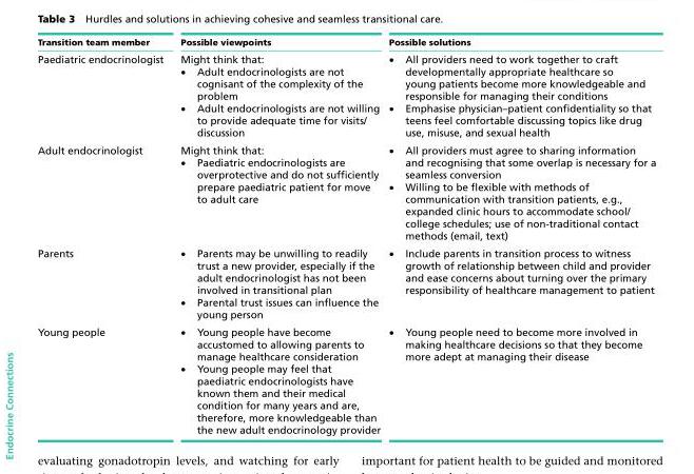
<table><thead><tr><td>Transition team member</td><td>Possible viewpoints</td><td>Possible solutions</td></tr></thead><tbody><tr><td>Paediatric endocrinologist</td><td>Might think that: • Adult endocrinologists are not cognisant of the complexity of the problem • Adult endocrinologists are not willing to provide adequate time for visits/ discussion</td><td>• All providers need to work together to craft developmentally appropriate healthcare so young patients become more knowledgeable and responsible for managing their conditions • Emphasise physician–patient confidentiality so that teens feel comfortable discussing topics like drug use, misuse, and sexual health</td></tr><tr><td>Adult endocrinologist</td><td>Might think that: • Paediatric endocrinologists are overprotective and do not sufficiently prepare paediatric patient for move to adult care</td><td>• All providers must agree to sharing information and recognising that some overlap is necessary for a seamless conversion • Willing to be flexible with methods of communication with transition patients, e.g., expanded clinic hours to accommodate school/ college schedules; use of non-traditional contact methods (email, text)</td></tr><tr><td>Parents</td><td>• Parents may be unwilling to readily trust a new provider, especially if the adult endocrinologist has not been involved in transitional plan • Parental trust issues can influence the young person</td><td>• Include parents in transition process to witness growth of relationship between child and provider and ease concerns about turning over the primary responsibility of healthcare management to patient</td></tr><tr><td>Young people</td><td>• Young people have become accustomed to allowing parents to manage healthcare consideration • Young people may feel that paediatric endocrinologists have known them and their medical condition for many years and are, therefore, more knowledgeable than the new adult endocrinology provider</td><td>• Young people need to become more involved in making healthcare decisions so that they become more adept at managing their disease</td></tr></tbody></table>